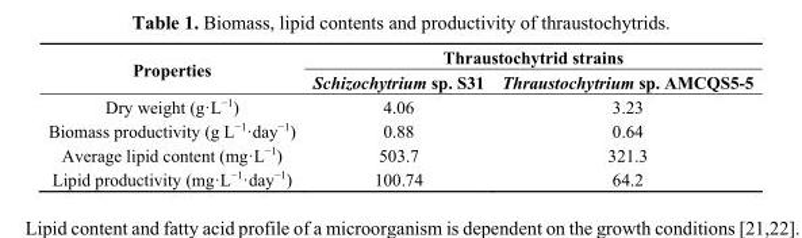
<table><thead><tr><td rowspan="2">Properties</td><td colspan="2">Thraustochytrid strains</td></tr><tr><td>Schizochytrium sp. S31</td><td>Thraustochytrium sp. AMCQS5-5</td></tr></thead><tbody><tr><td>Dry weight (g·L<sup>−1</sup>)</td><td>4.06</td><td>3.23</td></tr><tr><td>Biomass productivity (g L<sup>−1</sup>·day<sup>−1</sup>)</td><td>0.88</td><td>0.64</td></tr><tr><td>Average lipid content (mg·L<sup>−1</sup>)</td><td>503.7</td><td>321.3</td></tr><tr><td>Lipid productivity (mg·L<sup>−1</sup>·day<sup>−1</sup>)</td><td>100.74</td><td>64.2</td></tr></tbody></table>